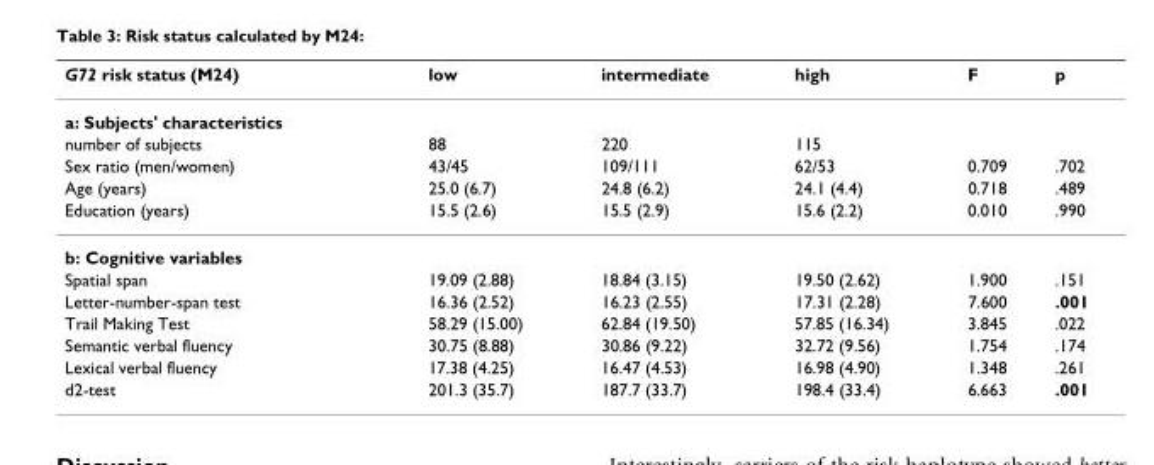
<table><thead><tr><td>G72 risk status (M24)</td><td>low</td><td>intermediate</td><td>high</td><td>F</td><td>p</td></tr></thead><tbody><tr><td colspan="6">a: Subjects&#x27; characteristics</td></tr><tr><td>number of subjects</td><td>88</td><td>220</td><td>115</td><td></td><td></td></tr><tr><td>Sex ratio (men/women)</td><td>43/45</td><td>109/111</td><td>62/53</td><td>0.709</td><td>.702</td></tr><tr><td>Age (years)</td><td>25.0 (6.7)</td><td>24.8 (6.2)</td><td>24.1 (4.4)</td><td>0.718</td><td>.489</td></tr><tr><td>Education (years)</td><td>15.5 (2.6)</td><td>15.5 (2.9)</td><td>15.6 (2.2)</td><td>0.010</td><td>.990</td></tr><tr><td colspan="6">b: Cognitive variables</td></tr><tr><td>Spatial span</td><td>19.09 (2.88)</td><td>18.84 (3.15)</td><td>19.50 (2.62)</td><td>1.900</td><td>.151</td></tr><tr><td>Letter-number-span test</td><td>16.36 (2.52)</td><td>16.23 (2.55)</td><td>17.31 (2.28)</td><td>7.600</td><td>.001</td></tr><tr><td>Trail Making Test</td><td>58.29 (15.00)</td><td>62.84 (19.50)</td><td>57.85 (16.34)</td><td>3.845</td><td>.022</td></tr><tr><td>Semantic verbal fluency</td><td>30.75 (8.88)</td><td>30.86 (9.22)</td><td>32.72 (9.56)</td><td>1.754</td><td>.174</td></tr><tr><td>Lexical verbal fluency</td><td>17.38 (4.25)</td><td>16.47 (4.53)</td><td>16.98 (4.90)</td><td>1.348</td><td>.261</td></tr><tr><td>d2-test</td><td>201.3 (35.7)</td><td>187.7 (33.7)</td><td>198.4 (33.4)</td><td>6.663</td><td>.001</td></tr></tbody></table>